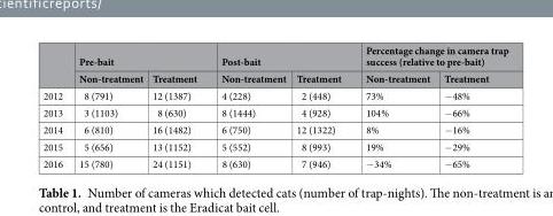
<table><thead><tr><td rowspan="2"></td><td colspan="2">Pre-bait</td><td colspan="2">Post-bait</td><td colspan="2">Percentage change in camera trap success (relative to pre-bait)</td></tr><tr><td>Non-treatment</td><td>Treatment</td><td>Non-treatment</td><td>Treatment</td><td>Non-treatment</td><td>Treatment</td></tr></thead><tbody><tr><td>2012</td><td>8 (791)</td><td>12 (1387)</td><td>4 (228)</td><td>2 (448)</td><td>73%</td><td>−48%</td></tr><tr><td>2013</td><td>3 (1103)</td><td>8 (630)</td><td>8 (1444)</td><td>4 (928)</td><td>104%</td><td>−66%</td></tr><tr><td>2014</td><td>6 (810)</td><td>16 (1482)</td><td>6 (750)</td><td>12 (1322)</td><td>8%</td><td>−16%</td></tr><tr><td>2015</td><td>5 (656)</td><td>13 (1152)</td><td>5 (552)</td><td>8 (993)</td><td>19%</td><td>−29%</td></tr><tr><td>2016</td><td>15 (780)</td><td>24 (1151)</td><td>8 (630)</td><td>7 (946)</td><td>−34%</td><td>−65%</td></tr></tbody></table>